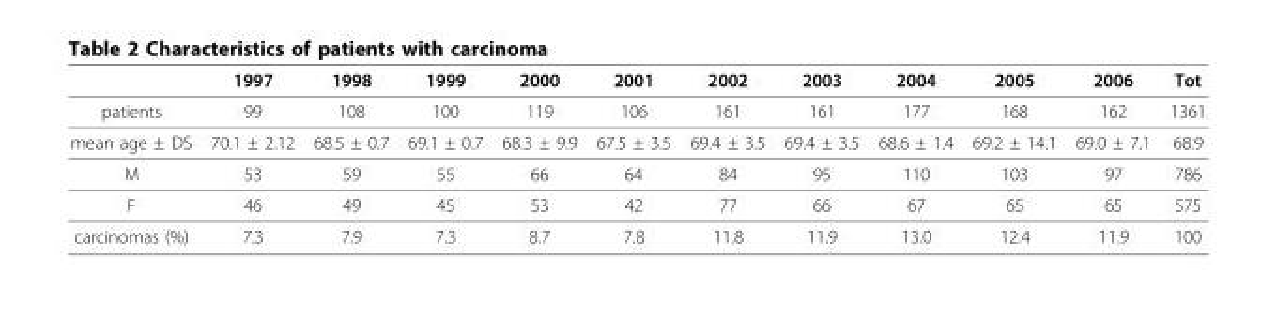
<table><thead><tr><td></td><td>1997</td><td>1998</td><td>1999</td><td>2000</td><td>2001</td><td>2002</td><td>2003</td><td>2004</td><td>2005</td><td>2006</td><td>Tot</td></tr></thead><tbody><tr><td>patients</td><td>99</td><td>108</td><td>100</td><td>119</td><td>106</td><td>161</td><td>161</td><td>177</td><td>168</td><td>162</td><td>1361</td></tr><tr><td>mean age ± DS</td><td>70.1 ± 2.12</td><td>68.5 ± 0.7</td><td>69.1 ± 0.7</td><td>68.3 ± 9.9</td><td>67.5 ± 3.5</td><td>69.4 ± 3.5</td><td>69.4 ± 3.5</td><td>68.6 ± 1.4</td><td>69.2 ± 14.1</td><td>69.0 ± 7.1</td><td>68.9</td></tr><tr><td>M</td><td>53</td><td>59</td><td>55</td><td>66</td><td>64</td><td>84</td><td>95</td><td>110</td><td>103</td><td>97</td><td>786</td></tr><tr><td>F</td><td>46</td><td>49</td><td>45</td><td>53</td><td>42</td><td>77</td><td>66</td><td>67</td><td>65</td><td>65</td><td>575</td></tr><tr><td>carcinomas (%)</td><td>7.3</td><td>7.9</td><td>7.3</td><td>8.7</td><td>7.8</td><td>11.8</td><td>11.9</td><td>13.0</td><td>12.4</td><td>11.9</td><td>100</td></tr></tbody></table>